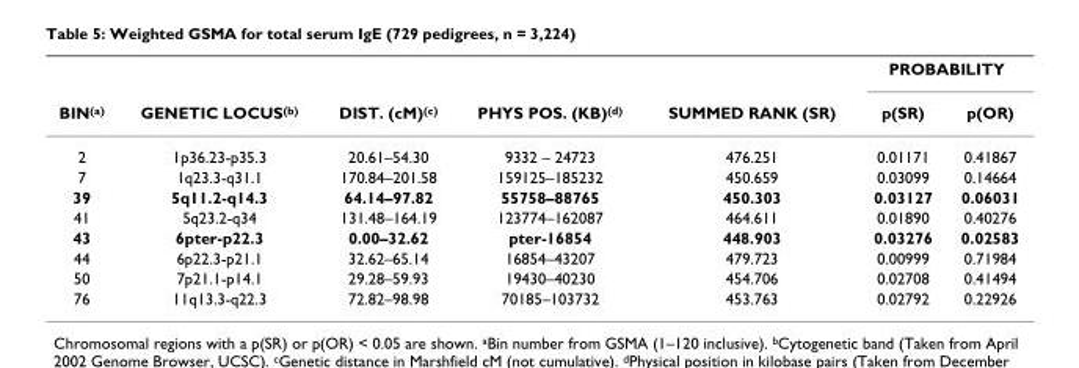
<table><thead><tr><td rowspan="2">BIN<sup>(a)</sup></td><td rowspan="2">GENETIC LOCUS<sup>(b)</sup></td><td rowspan="2">DIST. (cM)<sup>(c)</sup></td><td rowspan="2">PHYS POS. (KB)<sup>(d)</sup></td><td rowspan="2">SUMMED RANK (SR)</td><td colspan="2">PROBABILITY</td></tr><tr><td>p(SR)</td><td>p(OR)</td></tr></thead><tbody><tr><td>2</td><td>1p36.23-p35.3</td><td>20.61–54.30</td><td>9332 – 24723</td><td>476.251</td><td>0.01171</td><td>0.41867</td></tr><tr><td>7</td><td>1q23.3-q31.1</td><td>170.84–201.58</td><td>159125–185232</td><td>450.659</td><td>0.03099</td><td>0.14664</td></tr><tr><td>39</td><td>5q11.2-q14.3</td><td>64.14–97.82</td><td>55758–88765</td><td>450.303</td><td>0.03127</td><td>0.06031</td></tr><tr><td>41</td><td>5q23.2-q34</td><td>131.48–164.19</td><td>123774–162087</td><td>464.611</td><td>0.01890</td><td>0.40276</td></tr><tr><td>43</td><td>6pter-p22.3</td><td>0.00–32.62</td><td>pter-16854</td><td>448.903</td><td>0.03276</td><td>0.02583</td></tr><tr><td>44</td><td>6p22.3-p21.1</td><td>32.62–65.14</td><td>16854–43207</td><td>479.723</td><td>0.00999</td><td>0.71984</td></tr><tr><td>50</td><td>7p21.1-p14.1</td><td>29.28–59.93</td><td>19430–40230</td><td>454.706</td><td>0.02708</td><td>0.41494</td></tr><tr><td>76</td><td>11q13.3-q22.3</td><td>72.82–98.98</td><td>70185–103732</td><td>453.763</td><td>0.02792</td><td>0.22926</td></tr></tbody></table>